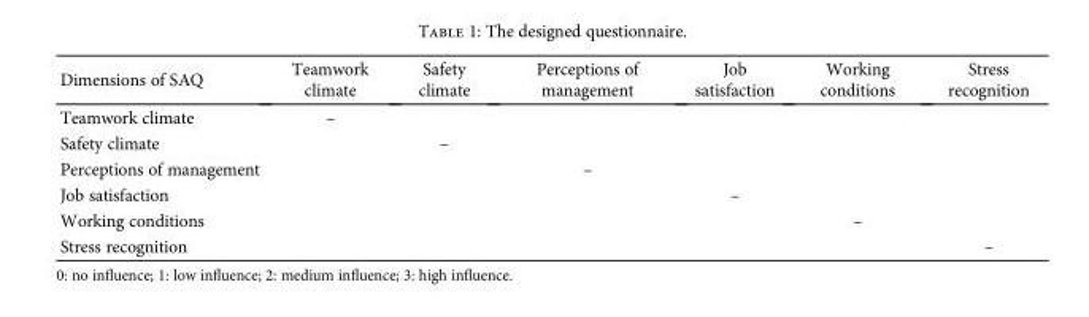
<table><thead><tr><td>Dimensions of SAQ</td><td>Teamwork climate</td><td>Safety climate</td><td>Perceptions of management</td><td>Job satisfaction</td><td>Working conditions</td><td>Stress recognition</td></tr></thead><tbody><tr><td>Teamwork climate</td><td>–</td><td></td><td></td><td></td><td></td><td></td></tr><tr><td>Safety climate</td><td></td><td>–</td><td></td><td></td><td></td><td></td></tr><tr><td>Perceptions of management</td><td></td><td></td><td>–</td><td></td><td></td><td></td></tr><tr><td>Job satisfaction</td><td></td><td></td><td></td><td>–</td><td></td><td></td></tr><tr><td>Working conditions</td><td></td><td></td><td></td><td></td><td>–</td><td></td></tr><tr><td>Stress recognition</td><td></td><td></td><td></td><td></td><td></td><td>–</td></tr></tbody></table>